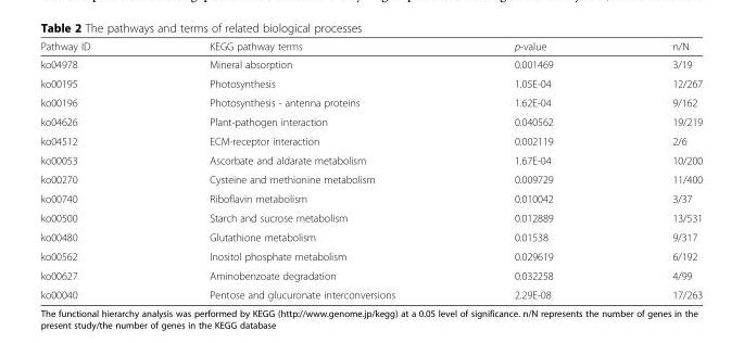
<table><thead><tr><td>Pathway ID</td><td>KEGG pathway terms</td><td>p-value</td><td>n/N</td></tr></thead><tbody><tr><td>ko04978</td><td>Mineral absorption</td><td>0.001469</td><td>3/19</td></tr><tr><td>ko00195</td><td>Photosynthesis</td><td>1.05E-04</td><td>12/267</td></tr><tr><td>ko00196</td><td>Photosynthesis - antenna proteins</td><td>1.62E-04</td><td>9/162</td></tr><tr><td>ko04626</td><td>Plant-pathogen interaction</td><td>0.040562</td><td>19/219</td></tr><tr><td>ko04512</td><td>ECM-receptor interaction</td><td>0.002119</td><td>2/6</td></tr><tr><td>ko00053</td><td>Ascorbate and aldarate metabolism</td><td>1.67E-04</td><td>10/200</td></tr><tr><td>ko00270</td><td>Cysteine and methionine metabolism</td><td>0.009729</td><td>11/400</td></tr><tr><td>ko00740</td><td>Riboflavin metabolism</td><td>0.010042</td><td>3/37</td></tr><tr><td>ko00500</td><td>Starch and sucrose metabolism</td><td>0.012889</td><td>13/531</td></tr><tr><td>ko00480</td><td>Glutathione metabolism</td><td>0.01538</td><td>9/317</td></tr><tr><td>ko00562</td><td>Inositol phosphate metabolism</td><td>0.029619</td><td>6/192</td></tr><tr><td>ko00627</td><td>Aminobenzoate degradation</td><td>0.032258</td><td>4/99</td></tr><tr><td>ko00040</td><td>Pentose and glucuronate interconversions</td><td>2.29E-08</td><td>17/263</td></tr></tbody></table>